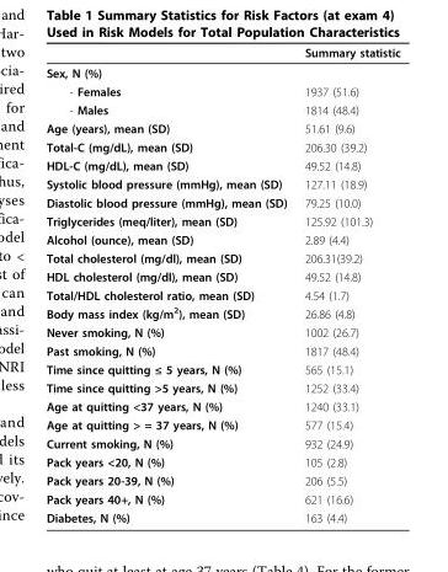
<table><thead><tr><td></td><td>Summary statistic</td></tr></thead><tbody><tr><td colspan="2">Sex, N (%)</td></tr><tr><td>- Females</td><td>1937 (51.6)</td></tr><tr><td>- Males</td><td>1814 (48.4)</td></tr><tr><td>Age (years), mean (SD)</td><td>51.61 (9.6)</td></tr><tr><td>Total-C (mg/dL), mean (SD)</td><td>206.30 (39.2)</td></tr><tr><td>HDL-C (mg/dL), mean (SD)</td><td>49.52 (14.8)</td></tr><tr><td>Systolic blood pressure (mmHg), mean (SD)</td><td>127.11 (18.9)</td></tr><tr><td>Diastolic blood pressure (mmHg), mean (SD)</td><td>79.25 (10.0)</td></tr><tr><td>Triglycerides (meq/liter), mean (SD)</td><td>125.92 (101.3)</td></tr><tr><td>Alcohol (ounce), mean (SD)</td><td>2.89 (4.4)</td></tr><tr><td>Total cholesterol (mg/dl), mean (SD)</td><td>206.31(39.2)</td></tr><tr><td>HDL cholesterol (mg/dl), mean (SD)</td><td>49.52 (14.8)</td></tr><tr><td>Total/HDL cholesterol ratio, mean (SD)</td><td>4.54 (1.7)</td></tr><tr><td>Body mass index (kg/m<sup>2</sup>), mean (SD)</td><td>26.86 (4.8)</td></tr><tr><td>Never smoking, N (%)</td><td>1002 (26.7)</td></tr><tr><td>Past smoking, N (%)</td><td>1817 (48.4)</td></tr><tr><td>Time since quitting ≤ 5 years, N (%)</td><td>565 (15.1)</td></tr><tr><td>Time since quitting &gt;5 years, N (%)</td><td>1252 (33.4)</td></tr><tr><td>Age at quitting &lt;37 years, N (%)</td><td>1240 (33.1)</td></tr><tr><td>Age at quitting &gt; = 37 years, N (%)</td><td>577 (15.4)</td></tr><tr><td>Current smoking, N (%)</td><td>932 (24.9)</td></tr><tr><td>Pack years &lt;20, N (%)</td><td>105 (2.8)</td></tr><tr><td>Pack years 20-39, N (%)</td><td>206 (5.5)</td></tr><tr><td>Pack years 40+, N (%)</td><td>621 (16.6)</td></tr><tr><td>Diabetes, N (%)</td><td>163 (4.4)</td></tr></tbody></table>